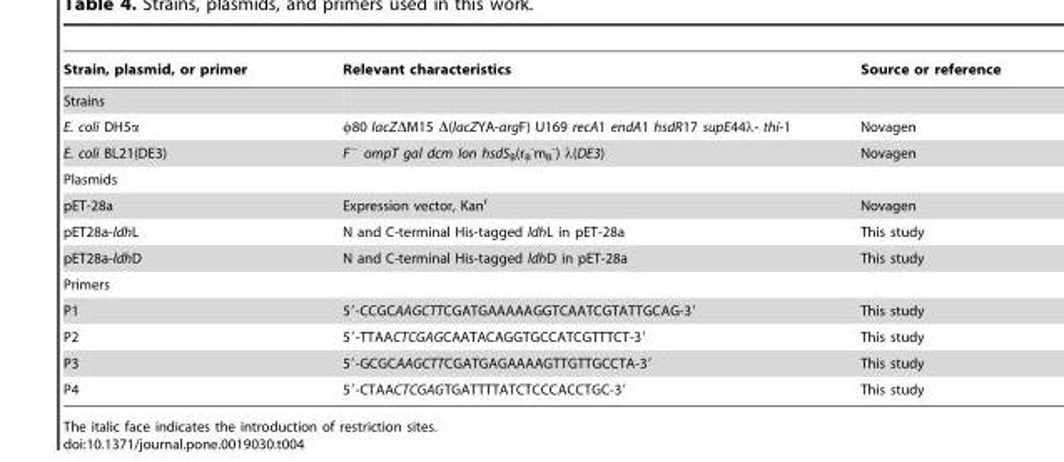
<table><thead><tr><td>Strain, plasmid, or primer</td><td>Relevant characteristics</td><td>Source or reference</td></tr></thead><tbody><tr><td colspan="3">Strains</td></tr><tr><td>E. coli DH5α</td><td>φ80 lacZΔM15 Δ(lacZYA-argF) U169 recA1 endA1 hsdR17 supE44λ- thi-1</td><td>Novagen</td></tr><tr><td>E. coli BL21(DE3)</td><td>F<sup>−</sup> ompT gal dcm lon hsdS<sub>B</sub>(r<sub>B</sub> <sup>-</sup>m<sub>B</sub> <sup>-</sup>) λ(DE3)</td><td>Novagen</td></tr><tr><td colspan="3">Plasmids</td></tr><tr><td>pET-28a</td><td>Expression vector, Kan<sup>r</sup></td><td>Novagen</td></tr><tr><td>pET28a-ldhL</td><td>N and C-terminal His-tagged ldhL in pET-28a</td><td>This study</td></tr><tr><td>pET28a-ldhD</td><td>N and C-terminal His-tagged ldhD in pET-28a</td><td>This study</td></tr><tr><td colspan="3">Primers</td></tr><tr><td>P1</td><td>5′-CCGCAAGCTTCGATGAAAAAGGTCAATCGTATTGCAG-3′</td><td>This study</td></tr><tr><td>P2</td><td>5′-TTAACTCGAGCAATACAGGTGCCATCGTTTCT-3′</td><td>This study</td></tr><tr><td>P3</td><td>5′-GCGCAAGCTTCGATGAGAAAAGTTGTTGCCTA-3′</td><td>This study</td></tr><tr><td>P4</td><td>5′-CTAACTCGAGTGATTTTATCTCCCACCTGC-3′</td><td>This study</td></tr></tbody></table>